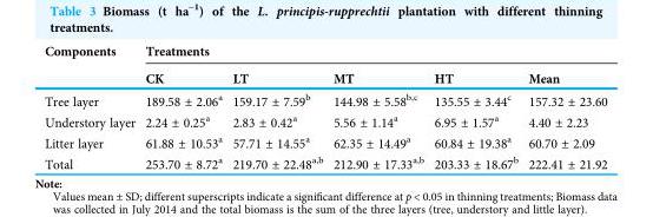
<table><thead><tr><td rowspan="2">Components</td><td colspan="5">Treatments</td></tr><tr><td>CK</td><td>LT</td><td>MT</td><td>HT</td><td>Mean</td></tr></thead><tbody><tr><td>Tree layer</td><td>189.58 ± 2.06<sup>a</sup></td><td>159.17 ± 7.59<sup>b</sup></td><td>144.98 ± 5.58<sup>b,c</sup></td><td>135.55 ± 3.44<sup>c</sup></td><td>157.32 ± 23.60</td></tr><tr><td>Understory layer</td><td>2.24 ± 0.25<sup>a</sup></td><td>2.83 ± 0.42<sup>a</sup></td><td>5.56 ± 1.14<sup>a</sup></td><td>6.95 ± 1.57<sup>a</sup></td><td>4.40 ± 2.23</td></tr><tr><td>Litter layer</td><td>61.88 ± 10.53<sup>a</sup></td><td>57.71 ± 14.55<sup>a</sup></td><td>62.35 ± 14.49<sup>a</sup></td><td>60.84 ± 19.38<sup>a</sup></td><td>60.70 ± 2.09</td></tr><tr><td>Total</td><td>253.70 ± 8.72<sup>a</sup></td><td>219.70 ± 22.48<sup>a,b</sup></td><td>212.90 ± 17.33<sup>a,b</sup></td><td>203.33 ± 18.67<sup>b</sup></td><td>222.41 ± 21.92</td></tr></tbody></table>